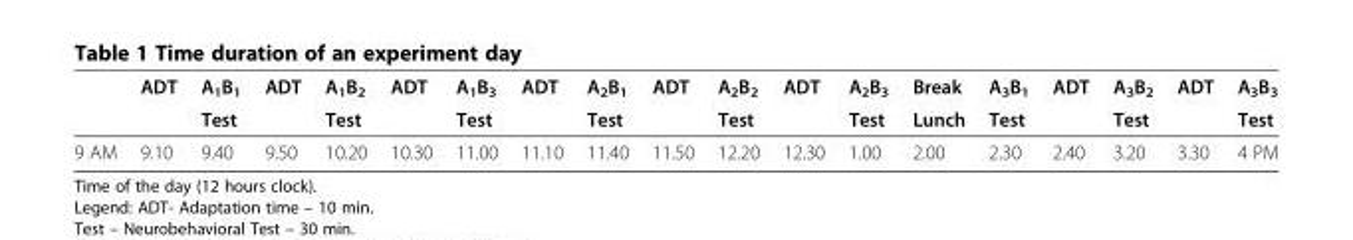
<table><thead><tr><td rowspan="2"></td><td rowspan="2">ADT</td><td rowspan="2">A<sub>1</sub>B<sub>1</sub> Test</td><td rowspan="2">ADT</td><td rowspan="2">A<sub>1</sub>B<sub>2</sub> Test</td><td rowspan="2">ADT</td><td rowspan="2">A<sub>1</sub>B<sub>3</sub> Test</td><td rowspan="2">ADT</td><td rowspan="2">A<sub>2</sub>B<sub>1</sub> Test</td><td rowspan="2">ADT</td><td rowspan="2">A<sub>2</sub>B<sub>2</sub> Test</td><td rowspan="2">ADT</td><td rowspan="2">A<sub>2</sub>B<sub>3</sub> Test</td><td rowspan="2">Break Lunch</td><td rowspan="2">A<sub>3</sub>B<sub>1</sub> Test</td><td rowspan="2">ADT</td><td rowspan="2">A<sub>3</sub>B<sub>2</sub> Test</td><td rowspan="2">ADT</td><td rowspan="2">A<sub>3</sub>B<sub>3</sub> Test</td></tr><tr></tr></thead><tbody><tr><td>9 AM</td><td>9.10</td><td>9.40</td><td>9.50</td><td>10.20</td><td>10.30</td><td>11.00</td><td>11.10</td><td>11.40</td><td>11.50</td><td>12.20</td><td>12.30</td><td>1.00</td><td>2.00</td><td>2.30</td><td>2.40</td><td>3.20</td><td>3.30</td><td>4 PM</td></tr></tbody></table>